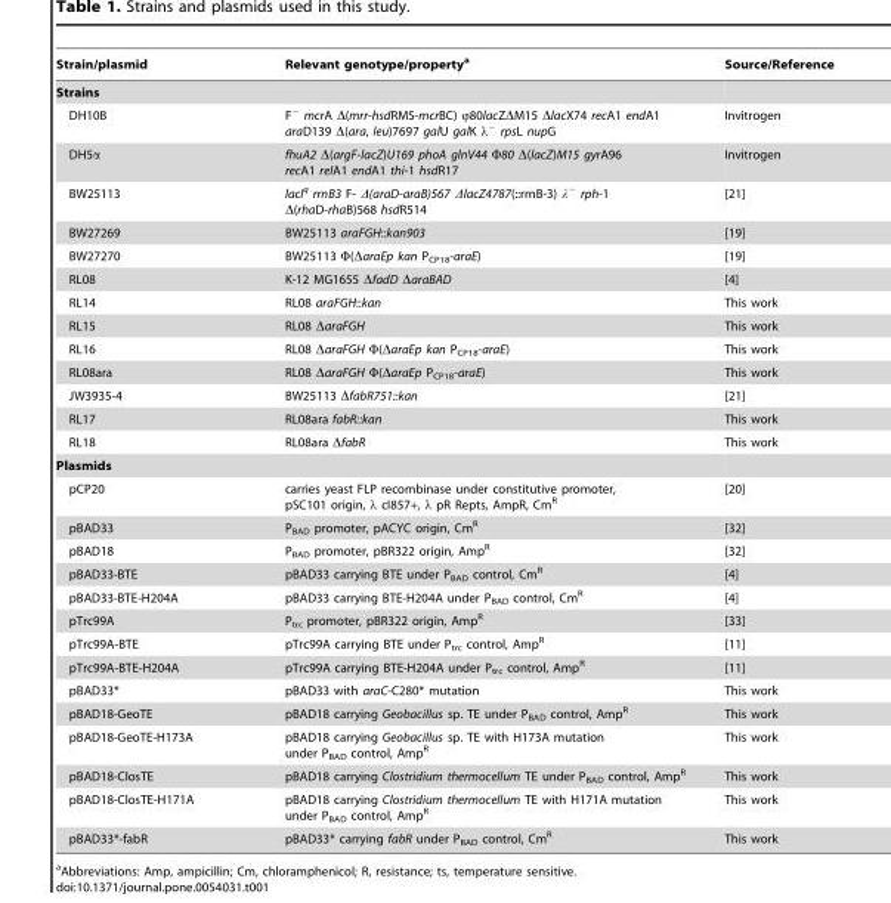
<table><thead><tr><td>Strain/plasmid</td><td>Relevant genotype/property<sup>a</sup></td><td>Source/Reference</td></tr></thead><tbody><tr><td colspan="3">Strains</td></tr><tr><td>DH10B</td><td>F<sup>−</sup> mcrA Δ(mrr-hsdRMS-mcrBC) φ80lacZΔM15 ΔlacX74 recA1 endA1 araD139 Δ(ara, leu)7697 galU galK λ<sup>−</sup> rpsL nupG</td><td>Invitrogen</td></tr><tr><td>DH5α</td><td>fhuA2 Δ(argF-lacZ)U169 phoA glnV44 Φ80 Δ(lacZ)M15 gyrA96 recA1 relA1 endA1 thi-1 hsdR17</td><td>Invitrogen</td></tr><tr><td>BW25113</td><td>lacI<sup>q</sup> rrnB3 F- Δ(araD-araB)567 ΔlacZ4787(::rrnB-3) λ<sup>−</sup> rph-1 Δ(rhaD-rhaB)568 hsdR514</td><td>[21]</td></tr><tr><td>BW27269</td><td>BW25113 araFGH::kan903</td><td>[19]</td></tr><tr><td>BW27270</td><td>BW25113 Φ(ΔaraEp kan P<sub>CP18</sub>-araE)</td><td>[19]</td></tr><tr><td>RL08</td><td>K-12 MG1655 ΔfadD ΔaraBAD</td><td>[4]</td></tr><tr><td>RL14</td><td>RL08 araFGH::kan</td><td>This work</td></tr><tr><td>RL15</td><td>RL08 ΔaraFGH</td><td>This work</td></tr><tr><td>RL16</td><td>RL08 ΔaraFGH Φ(ΔaraEp kan P<sub>CP18</sub>-araE)</td><td>This work</td></tr><tr><td>RL08ara</td><td>RL08 ΔaraFGH Φ(ΔaraEp P<sub>CP18</sub>-araE)</td><td>This work</td></tr><tr><td>JW3935-4</td><td>BW25113 ΔfabR751::kan</td><td>[21]</td></tr><tr><td>RL17</td><td>RL08ara fabR::kan</td><td>This work</td></tr><tr><td>RL18</td><td>RL08ara ΔfabR</td><td>This work</td></tr><tr><td colspan="3">Plasmids</td></tr><tr><td>pCP20</td><td>carries yeast FLP recombinase under constitutive promoter, pSC101 origin, λ cI857+, λ pR Repts, AmpR, Cm<sup>R</sup></td><td>[20]</td></tr><tr><td>pBAD33</td><td>P<sub>BAD</sub> promoter, pACYC origin, Cm<sup>R</sup></td><td>[32]</td></tr><tr><td>pBAD18</td><td>P<sub>BAD</sub> promoter, pBR322 origin, Amp<sup>R</sup></td><td>[32]</td></tr><tr><td>pBAD33-BTE</td><td>pBAD33 carrying BTE under P<sub>BAD</sub> control, Cm<sup>R</sup></td><td>[4]</td></tr><tr><td>pBAD33-BTE-H204A</td><td>pBAD33 carrying BTE-H204A under P<sub>BAD</sub> control, Cm<sup>R</sup></td><td>[4]</td></tr><tr><td>pTrc99A</td><td>P<sub>trc</sub> promoter, pBR322 origin, Amp<sup>R</sup></td><td>[33]</td></tr><tr><td>pTrc99A-BTE</td><td>pTrc99A carrying BTE under P<sub>trc</sub> control, Amp<sup>R</sup></td><td>[11]</td></tr><tr><td>pTrc99A-BTE-H204A</td><td>pTrc99A carrying BTE-H204A under P<sub>trc</sub> control, Amp<sup>R</sup></td><td>[11]</td></tr><tr><td>pBAD33*</td><td>pBAD33 with araC-C280* mutation</td><td>This work</td></tr><tr><td>pBAD18-GeoTE</td><td>pBAD18 carrying Geobacillus sp. TE under P<sub>BAD</sub> control, Amp<sup>R</sup></td><td>This work</td></tr><tr><td>pBAD18-GeoTE-H173A</td><td>pBAD18 carrying Geobacillus sp. TE with H173A mutation under P<sub>BAD</sub> control, Amp<sup>R</sup></td><td>This work</td></tr><tr><td>pBAD18-ClosTE</td><td>pBAD18 carrying Clostridium thermocellum TE under P<sub>BAD</sub> control, Amp<sup>R</sup></td><td>This work</td></tr><tr><td>pBAD18-ClosTE-H171A</td><td>pBAD18 carrying Clostridium thermocellum TE with H171A mutation under P<sub>BAD</sub> control, Amp<sup>R</sup></td><td>This work</td></tr><tr><td>pBAD33*-fabR</td><td>pBAD33* carrying fabR under P<sub>BAD</sub> control, Cm<sup>R</sup></td><td>This work</td></tr></tbody></table>